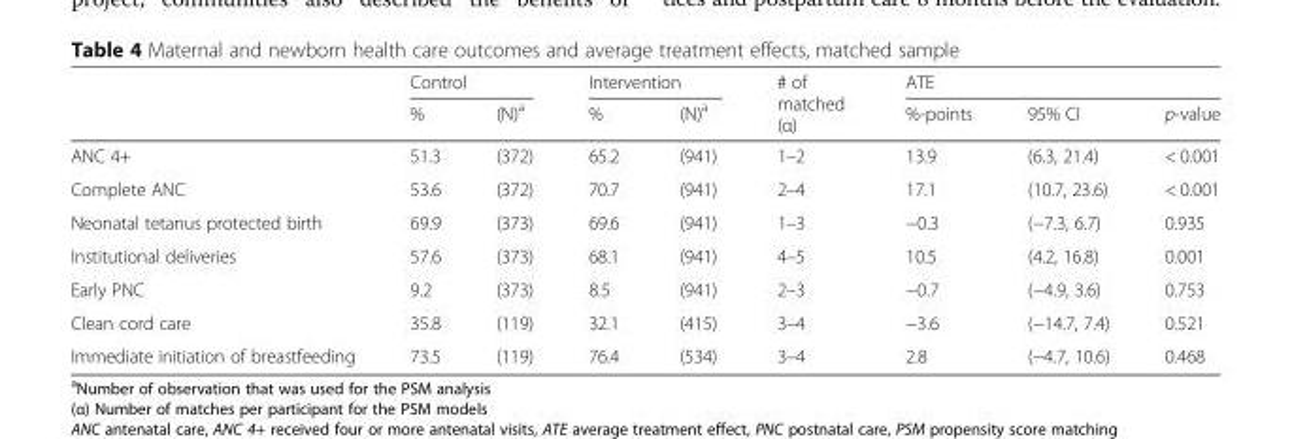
<table><thead><tr><td rowspan="2"></td><td colspan="2">Control</td><td colspan="2">Intervention</td><td rowspan="2"># of matched (α)</td><td colspan="3">ATE</td></tr><tr><td>%</td><td>(N)<sup>a</sup></td><td>%</td><td>(N)<sup>a</sup></td><td>%-points</td><td>95% CI</td><td>p-value</td></tr></thead><tbody><tr><td>ANC 4+</td><td>51.3</td><td>(372)</td><td>65.2</td><td>(941)</td><td>1–2</td><td>13.9</td><td>(6.3, 21.4)</td><td>&lt; 0.001</td></tr><tr><td>Complete ANC</td><td>53.6</td><td>(372)</td><td>70.7</td><td>(941)</td><td>2–4</td><td>17.1</td><td>(10.7, 23.6)</td><td>&lt; 0.001</td></tr><tr><td>Neonatal tetanus protected birth</td><td>69.9</td><td>(373)</td><td>69.6</td><td>(941)</td><td>1–3</td><td>−0.3</td><td>(−7.3, 6.7)</td><td>0.935</td></tr><tr><td>Institutional deliveries</td><td>57.6</td><td>(373)</td><td>68.1</td><td>(941)</td><td>4–5</td><td>10.5</td><td>(4.2, 16.8)</td><td>0.001</td></tr><tr><td>Early PNC</td><td>9.2</td><td>(373)</td><td>8.5</td><td>(941)</td><td>2–3</td><td>−0.7</td><td>(−4.9, 3.6)</td><td>0.753</td></tr><tr><td>Clean cord care</td><td>35.8</td><td>(119)</td><td>32.1</td><td>(415)</td><td>3–4</td><td>−3.6</td><td>(−14.7, 7.4)</td><td>0.521</td></tr><tr><td>Immediate initiation of breastfeeding</td><td>73.5</td><td>(119)</td><td>76.4</td><td>(534)</td><td>3–4</td><td>2.8</td><td>(−4.7, 10.6)</td><td>0.468</td></tr></tbody></table>